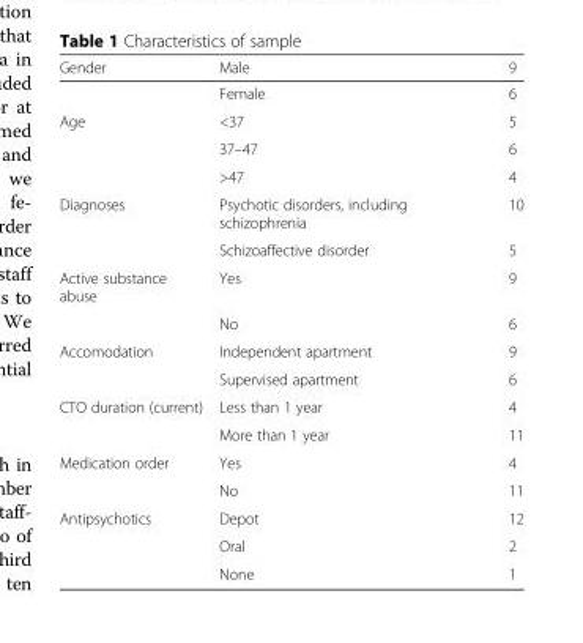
<table><thead><tr><td>Gender</td><td>Male</td><td>9</td></tr></thead><tbody><tr><td></td><td>Female</td><td>6</td></tr><tr><td rowspan="3">Age</td><td>&lt;37</td><td>5</td></tr><tr><td>37–47</td><td>6</td></tr><tr><td>&gt;47</td><td>4</td></tr><tr><td rowspan="2">Diagnoses</td><td>Psychotic disorders, including schizophrenia</td><td>10</td></tr><tr><td>Schizoaffective disorder</td><td>5</td></tr><tr><td rowspan="2">Active substance abuse</td><td>Yes</td><td>9</td></tr><tr><td>No</td><td>6</td></tr><tr><td rowspan="2">Accomodation</td><td>Independent apartment</td><td>9</td></tr><tr><td>Supervised apartment</td><td>6</td></tr><tr><td rowspan="2">CTO duration (current)</td><td>Less than 1 year</td><td>4</td></tr><tr><td>More than 1 year</td><td>11</td></tr><tr><td rowspan="2">Medication order</td><td>Yes</td><td>4</td></tr><tr><td>No</td><td>11</td></tr><tr><td rowspan="3">Antipsychotics</td><td>Depot</td><td>12</td></tr><tr><td>Oral</td><td>2</td></tr><tr><td>None</td><td>1</td></tr></tbody></table>